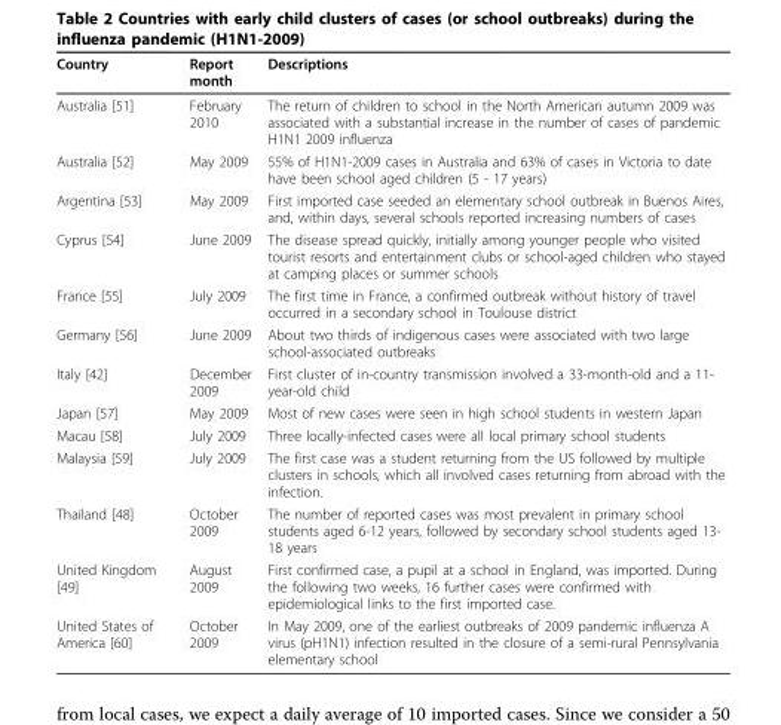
<table><thead><tr><td>Country</td><td>Report month</td><td>Descriptions</td></tr></thead><tbody><tr><td>Australia [51]</td><td>February 2010</td><td>The return of children to school in the North American autumn 2009 was associated with a substantial increase in the number of cases of pandemic H1N1 2009 influenza</td></tr><tr><td>Australia [52]</td><td>May 2009</td><td>55% of H1N1-2009 cases in Australia and 63% of cases in Victoria to date have been school aged children (5 - 17 years)</td></tr><tr><td>Argentina [53]</td><td>May 2009</td><td>First imported case seeded an elementary school outbreak in Buenos Aires, and, within days, several schools reported increasing numbers of cases</td></tr><tr><td>Cyprus [54]</td><td>June 2009</td><td>The disease spread quickly, initially among younger people who visited tourist resorts and entertainment clubs or school-aged children who stayed at camping places or summer schools</td></tr><tr><td>France [55]</td><td>July 2009</td><td>The first time in France, a confirmed outbreak without history of travel occurred in a secondary school in Toulouse district</td></tr><tr><td>Germany [56]</td><td>June 2009</td><td>About two thirds of indigenous cases were associated with two large school-associated outbreaks</td></tr><tr><td>Italy [42]</td><td>December 2009</td><td>First cluster of in-country transmission involved a 33-month-old and a 11- year-old child</td></tr><tr><td>Japan [57]</td><td>May 2009</td><td>Most of new cases were seen in high school students in western Japan</td></tr><tr><td>Macau [58]</td><td>July 2009</td><td>Three locally-infected cases were all local primary school students</td></tr><tr><td>Malaysia [59]</td><td>July 2009</td><td>The first case was a student returning from the US followed by multiple clusters in schools, which all involved cases returning from abroad with the infection.</td></tr><tr><td>Thailand [48]</td><td>October 2009</td><td>The number of reported cases was most prevalent in primary school students aged 6-12 years, followed by secondary school students aged 13- 18 years</td></tr><tr><td>United Kingdom [49]</td><td>August 2009</td><td>First confirmed case, a pupil at a school in England, was imported. During the following two weeks, 16 further cases were confirmed with epidemiological links to the first imported case.</td></tr><tr><td>United States of America [60]</td><td>October 2009</td><td>In May 2009, one of the earliest outbreaks of 2009 pandemic influenza A virus (pH1N1) infection resulted in the closure of a semi-rural Pennsylvania elementary school</td></tr></tbody></table>